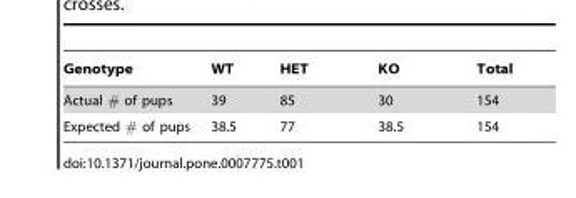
<table><thead><tr><td>Genotype</td><td>WT</td><td>HET</td><td>KO</td><td>Total</td></tr></thead><tbody><tr><td>Actual # of pups</td><td>39</td><td>85</td><td>30</td><td>154</td></tr><tr><td>Expected # of pups</td><td>38.5</td><td>77</td><td>38.5</td><td>154</td></tr></tbody></table>